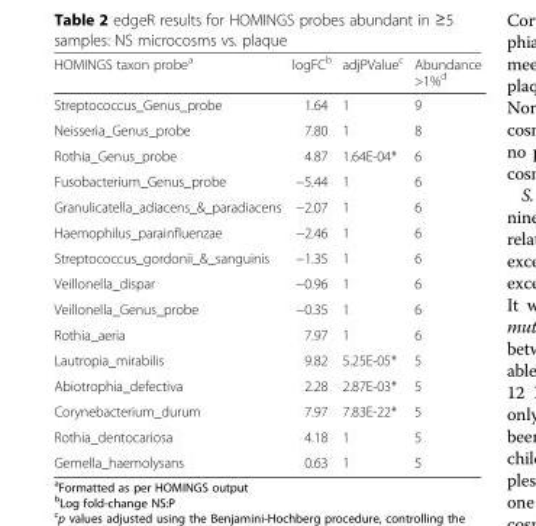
<table><thead><tr><td>HOMINGS taxon probe<sup>a</sup></td><td>logFC<sup>b</sup></td><td>adjPValue<sup>c</sup></td><td>Abundance &gt;1%<sup>d</sup></td></tr></thead><tbody><tr><td>Streptococcus_Genus_probe</td><td>1.64</td><td>1</td><td>9</td></tr><tr><td>Neisseria_Genus_probe</td><td>7.80</td><td>1</td><td>8</td></tr><tr><td>Rothia_Genus_probe</td><td>4.87</td><td>1.64E-04*</td><td>6</td></tr><tr><td>Fusobacterium_Genus_probe</td><td>−5.44</td><td>1</td><td>6</td></tr><tr><td>Granulicatella_adiacens_&amp;_paradiacens</td><td>−2.07</td><td>1</td><td>6</td></tr><tr><td>Haemophilus_parainfluenzae</td><td>−2.46</td><td>1</td><td>6</td></tr><tr><td>Streptococcus_gordonii_&amp;_sanguinis</td><td>−1.35</td><td>1</td><td>6</td></tr><tr><td>Veillonella_dispar</td><td>−0.96</td><td>1</td><td>6</td></tr><tr><td>Veillonella_Genus_probe</td><td>−0.35</td><td>1</td><td>6</td></tr><tr><td>Rothia_aeria</td><td>7.97</td><td>1</td><td>6</td></tr><tr><td>Lautropia_mirabilis</td><td>9.82</td><td>5.25E-05*</td><td>5</td></tr><tr><td>Abiotrophia_defectiva</td><td>2.28</td><td>2.87E-03*</td><td>5</td></tr><tr><td>Corynebacterium_durum</td><td>7.97</td><td>7.83E-22*</td><td>5</td></tr><tr><td>Rothia_dentocariosa</td><td>4.18</td><td>1</td><td>5</td></tr><tr><td>Gemella_haemolysans</td><td>0.63</td><td>1</td><td>5</td></tr></tbody></table>